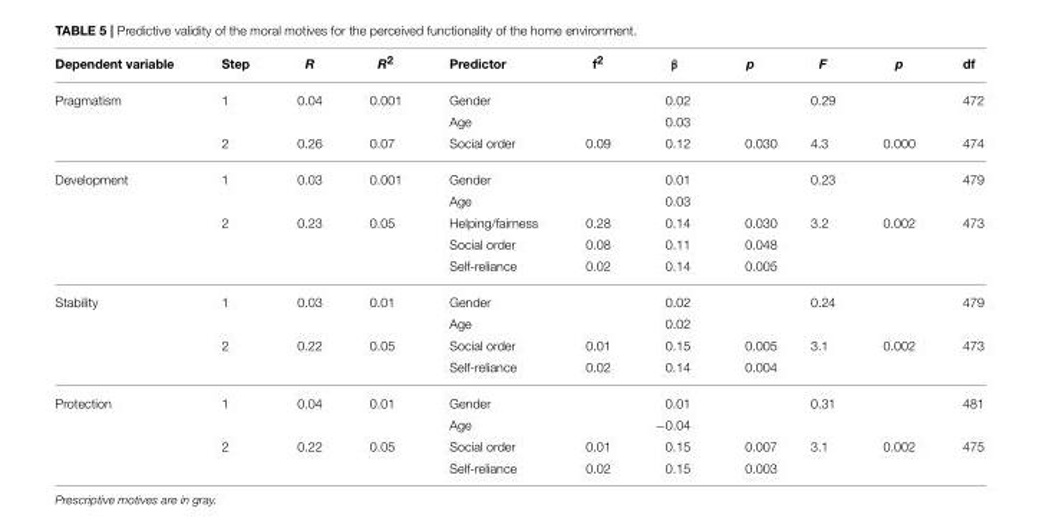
<table><thead><tr><td>Dependent variable</td><td>Step</td><td>R</td><td>R<sup>2</sup></td><td>Predictor</td><td>f<sup>2</sup></td><td>β</td><td>p</td><td>F</td><td>p</td><td>df</td></tr></thead><tbody><tr><td rowspan="3">Pragmatism</td><td>1</td><td>0.04</td><td>0.001</td><td>Gender</td><td></td><td>0.02</td><td></td><td>0.29</td><td></td><td>472</td></tr><tr><td></td><td></td><td></td><td>Age</td><td></td><td>0.03</td><td></td><td></td><td></td><td></td></tr><tr><td>2</td><td>0.26</td><td>0.07</td><td>Social order</td><td>0.09</td><td>0.12</td><td>0.030</td><td>4.3</td><td>0.000</td><td>474</td></tr><tr><td rowspan="5">Development</td><td>1</td><td>0.03</td><td>0.001</td><td>Gender</td><td></td><td>0.01</td><td></td><td>0.23</td><td></td><td>479</td></tr><tr><td></td><td></td><td></td><td>Age</td><td></td><td>0.03</td><td></td><td></td><td></td><td></td></tr><tr><td>2</td><td>0.23</td><td>0.05</td><td>Helping/fairness</td><td>0.28</td><td>0.14</td><td>0.030</td><td>3.2</td><td>0.002</td><td>473</td></tr><tr><td></td><td></td><td></td><td>Social order</td><td>0.08</td><td>0.11</td><td>0.048</td><td></td><td></td><td></td></tr><tr><td></td><td></td><td></td><td>Self-reliance</td><td>0.02</td><td>0.14</td><td>0.005</td><td></td><td></td><td></td></tr><tr><td rowspan="4">Stability</td><td>1</td><td>0.03</td><td>0.01</td><td>Gender</td><td></td><td>0.02</td><td></td><td>0.24</td><td></td><td>479</td></tr><tr><td></td><td></td><td></td><td>Age</td><td></td><td>0.02</td><td></td><td></td><td></td><td></td></tr><tr><td>2</td><td>0.22</td><td>0.05</td><td>Social order</td><td>0.01</td><td>0.15</td><td>0.005</td><td>3.1</td><td>0.002</td><td>473</td></tr><tr><td></td><td></td><td></td><td>Self-reliance</td><td>0.02</td><td>0.14</td><td>0.004</td><td></td><td></td><td></td></tr><tr><td rowspan="4">Protection</td><td>1</td><td>0.04</td><td>0.01</td><td>Gender</td><td></td><td>0.01</td><td></td><td>0.31</td><td></td><td>481</td></tr><tr><td></td><td></td><td></td><td>Age</td><td></td><td>−0.04</td><td></td><td></td><td></td><td></td></tr><tr><td>2</td><td>0.22</td><td>0.05</td><td>Social order</td><td>0.01</td><td>0.15</td><td>0.007</td><td>3.1</td><td>0.002</td><td>475</td></tr><tr><td></td><td></td><td></td><td>Self-reliance</td><td>0.02</td><td>0.15</td><td>0.003</td><td></td><td></td><td></td></tr></tbody></table>